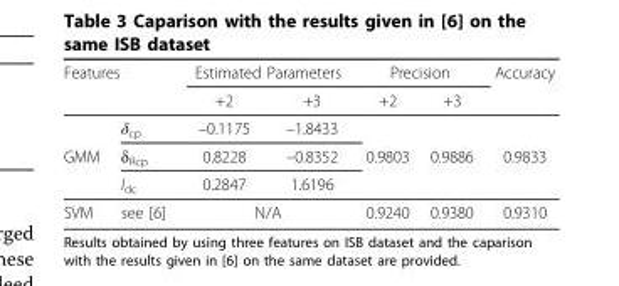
<table><thead><tr><td colspan="2">Features</td><td colspan="2">Estimated Parameters</td><td colspan="2">Precision</td><td rowspan="2">Accuracy</td></tr><tr><td></td><td></td><td>+2</td><td>+3</td><td>+2</td><td>+3</td></tr></thead><tbody><tr><td></td><td>δ<sub>cp</sub></td><td>–0.1175</td><td>–1.8433</td><td></td><td></td><td></td></tr><tr><td rowspan="2">GMM</td><td>δ<sub>Rcp</sub></td><td>0.8228</td><td>–0.8352</td><td>0.9803</td><td>0.9886</td><td>0.9833</td></tr><tr><td>I<sub>dc</sub></td><td>0.2847</td><td>1.6196</td><td></td><td></td><td></td></tr><tr><td>SVM</td><td>see [6]</td><td colspan="2">N/A</td><td>0.9240</td><td>0.9380</td><td>0.9310</td></tr></tbody></table>